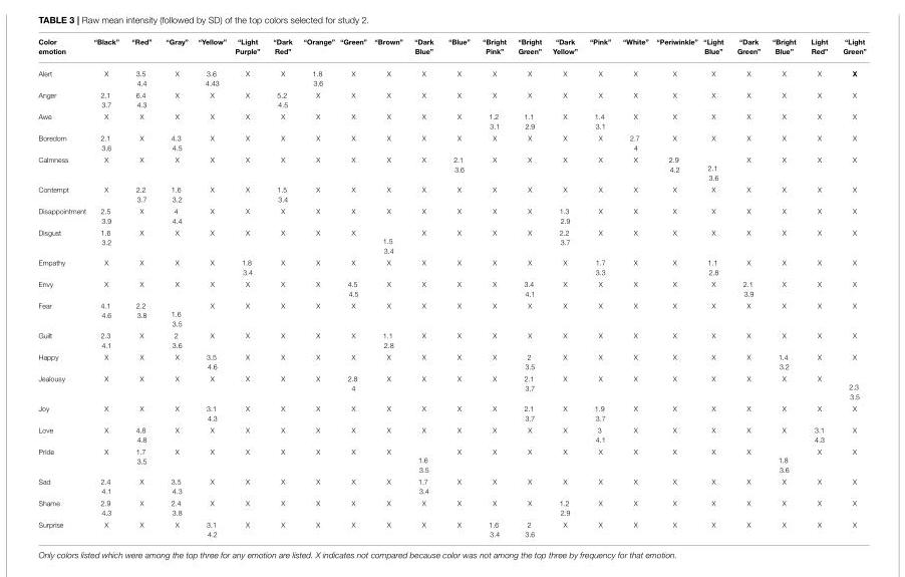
<table><thead><tr><td>Color emotion</td><td>“Black”</td><td>“Red”</td><td>“Gray”</td><td>“Yellow”</td><td>“Light Purple”</td><td>“Dark Red”</td><td>“Orange”</td><td>“Green”</td><td>“Brown”</td><td>“Dark Blue”</td><td>“Blue”</td><td>“Bright Pink”</td><td>“Bright Green”</td><td>“Dark Yellow”</td><td>“Pink”</td><td>“White”</td><td>“Periwinkle”</td><td>“Light Blue”</td><td>“Dark Green”</td><td>“Bright Blue”</td><td>Light Red”</td><td>“Light Green”</td></tr></thead><tbody><tr><td>Alert</td><td>X</td><td>3.5 4.4</td><td>X</td><td>3.6 4.43</td><td>X</td><td>X</td><td>1.8 3.6</td><td>X</td><td>X</td><td>X</td><td>X</td><td>X</td><td>X</td><td>X</td><td>X</td><td>X</td><td>X</td><td>X</td><td>X</td><td>X</td><td>X</td><td>X</td></tr><tr><td>Anger</td><td>2.1 3.7</td><td>6.4 4.3</td><td>X</td><td>X</td><td>X</td><td>5.2 4.5</td><td>X</td><td>X</td><td>X</td><td>X</td><td>X</td><td>X</td><td>X</td><td>X</td><td>X</td><td>X</td><td>X</td><td>X</td><td>X</td><td>X</td><td>X</td><td>X</td></tr><tr><td>Awe</td><td>X</td><td>X</td><td>X</td><td>X</td><td>X</td><td>X</td><td>X</td><td>X</td><td>X</td><td>X</td><td>X</td><td>1.2 3.1</td><td>1.1 2.9</td><td>X</td><td>1.4 3.1</td><td>X</td><td>X</td><td>X</td><td>X</td><td>X</td><td>X</td><td>X</td></tr><tr><td>Boredom</td><td>2.1 3.6</td><td>X</td><td>4.3 4.5</td><td>X</td><td>X</td><td>X</td><td>X</td><td>X</td><td>X</td><td>X</td><td>X</td><td>X</td><td>X</td><td>X</td><td>X</td><td>2.7 4</td><td>X</td><td>X</td><td>X</td><td>X</td><td>X</td><td>X</td></tr><tr><td>Calmness</td><td>X</td><td>X</td><td>X</td><td>X</td><td>X</td><td>X</td><td>X</td><td>X</td><td>X</td><td>X</td><td>2.1 3.6</td><td>X</td><td>X</td><td>X</td><td>X</td><td>X</td><td>2.9 4.2</td><td>2.1 3.6</td><td>X</td><td>X</td><td>X</td><td>X</td></tr><tr><td>Contempt</td><td>X</td><td>2.2 3.7</td><td>1.6 3.2</td><td>X</td><td>X</td><td>1.5 3.4</td><td>X</td><td>X</td><td>X</td><td>X</td><td>X</td><td>X</td><td>X</td><td>X</td><td>X</td><td>X</td><td>X</td><td>X</td><td>X</td><td>X</td><td>X</td><td>X</td></tr><tr><td>Disappointment</td><td>2.5 3.9</td><td>X</td><td>4 4.4</td><td>X</td><td>X</td><td>X</td><td>X</td><td>X</td><td>X</td><td>X</td><td>X</td><td>X</td><td>X</td><td>1.3 2.9</td><td>X</td><td>X</td><td>X</td><td>X</td><td>X</td><td>X</td><td>X</td><td>X</td></tr><tr><td>Disgust</td><td>1.6 3.2</td><td>X</td><td>X</td><td>X</td><td>X</td><td>X</td><td>X</td><td>X</td><td>1.5 3.4</td><td>X</td><td>X</td><td>X</td><td>X</td><td>2.2 3.7</td><td>X</td><td>X</td><td>X</td><td>X</td><td>X</td><td>X</td><td>X</td><td>X</td></tr><tr><td>Empathy</td><td>X</td><td>X</td><td>X</td><td>X</td><td>1.8 3.4</td><td>X</td><td>X</td><td>X</td><td>X</td><td>X</td><td>X</td><td>X</td><td>X</td><td>X</td><td>1.7 3.3</td><td>X</td><td>X</td><td>1.1 2.8</td><td>X</td><td>X</td><td>X</td><td>X</td></tr><tr><td>Envy</td><td>X</td><td>X</td><td>X</td><td>X</td><td>X</td><td>X</td><td>X</td><td>4.5 4.5</td><td>X</td><td>X</td><td>X</td><td>X</td><td>3.4 4.1</td><td>X</td><td>X</td><td>X</td><td>X</td><td>X</td><td>2.1 3.9</td><td>X</td><td>X</td><td>X</td></tr><tr><td>Fear</td><td>4.1 4.6</td><td>2.2 3.8</td><td>1.6 3.5</td><td>X</td><td>X</td><td>X</td><td>X</td><td>X</td><td>X</td><td>X</td><td>X</td><td>X</td><td>X</td><td>X</td><td>X</td><td>X</td><td>X</td><td>X</td><td>X</td><td>X</td><td>X</td><td>X</td></tr><tr><td>Guilt</td><td>2.3 4.1</td><td>X</td><td>2 3.6</td><td>X</td><td>X</td><td>X</td><td>X</td><td>X</td><td>1.1 2.8</td><td>X</td><td>X</td><td>X</td><td>X</td><td>X</td><td>X</td><td>X</td><td>X</td><td>X</td><td>X</td><td>X</td><td>X</td><td>X</td></tr><tr><td>Happy</td><td>X</td><td>X</td><td>X</td><td>3.5 4.6</td><td>X</td><td>X</td><td>X</td><td>X</td><td>X</td><td>X</td><td>X</td><td>X</td><td>2 3.5</td><td>X</td><td>X</td><td>X</td><td>X</td><td>X</td><td>X</td><td>1.4 3.2</td><td>X</td><td>X</td></tr><tr><td>Jealousy</td><td>X</td><td>X</td><td>X</td><td>X</td><td>X</td><td>X</td><td>X</td><td>2.8 4</td><td>X</td><td>X</td><td>X</td><td>X</td><td>2.1 3.7</td><td>X</td><td>X</td><td>X</td><td>X</td><td>X</td><td>X</td><td>X</td><td>X</td><td>2.3 3.5</td></tr><tr><td>Joy</td><td>X</td><td>X</td><td>X</td><td>3.1 4.3</td><td>X</td><td>X</td><td>X</td><td>X</td><td>X</td><td>X</td><td>X</td><td>X</td><td>2.1 3.7</td><td>X</td><td>1.9 3.7</td><td>X</td><td>X</td><td>X</td><td>X</td><td>X</td><td>X</td><td>X</td></tr><tr><td>Love</td><td>X</td><td>4.8 4.8</td><td>X</td><td>X</td><td>X</td><td>X</td><td>X</td><td>X</td><td>X</td><td>X</td><td>X</td><td>X</td><td>X</td><td>X</td><td>3 4.1</td><td>X</td><td>X</td><td>X</td><td>X</td><td>X</td><td>3.1 4.3</td><td>X</td></tr><tr><td>Pride</td><td>X</td><td>1.7 3.5</td><td>X</td><td>X</td><td>X</td><td>X</td><td>X</td><td>X</td><td>X</td><td>1.6 3.5</td><td>X</td><td>X</td><td>X</td><td>X</td><td>X</td><td>X</td><td>X</td><td>X</td><td>X</td><td>1.8 3.6</td><td>X</td><td>X</td></tr><tr><td>Sad</td><td>2.4 4.1</td><td>X</td><td>3.5 4.3</td><td>X</td><td>X</td><td>X</td><td>X</td><td>X</td><td>X</td><td>1.7 3.4</td><td>X</td><td>X</td><td>X</td><td>X</td><td>X</td><td>X</td><td>X</td><td>X</td><td>X</td><td>X</td><td>X</td><td>X</td></tr><tr><td>Shame</td><td>2.9 4.3</td><td>X</td><td>2.4 3.8</td><td>X</td><td>X</td><td>X</td><td>X</td><td>X</td><td>X</td><td>X</td><td>X</td><td>X</td><td>X</td><td>1.2 2.9</td><td>X</td><td>X</td><td>X</td><td>X</td><td>X</td><td>X</td><td>X</td><td>X</td></tr><tr><td>Surprise</td><td>X</td><td>X</td><td>X</td><td>3.1 4.2</td><td>X</td><td>X</td><td>X</td><td>X</td><td>X</td><td>X</td><td>X</td><td>1.6 3.4</td><td>2 3.6</td><td>X</td><td>X</td><td>X</td><td>X</td><td>X</td><td>X</td><td>X</td><td>X</td><td>X</td></tr></tbody></table>